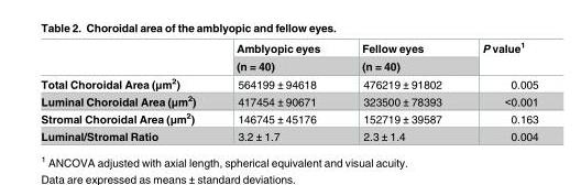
<table><thead><tr><td rowspan="2"></td><td rowspan="2">Amblyopic eyes (n = 40)</td><td rowspan="2">Fellow eyes (n = 40)</td><td rowspan="2">P value<sup>1</sup></td></tr><tr></tr></thead><tbody><tr><td>Total Choroidal Area (μm<sup>2</sup>)</td><td>564199 ± 94618</td><td>476219 ± 91802</td><td>0.005</td></tr><tr><td>Luminal Choroidal Area (μm<sup>2</sup>)</td><td>417454 ± 90671</td><td>323500 ± 78393</td><td>&lt;0.001</td></tr><tr><td>Stromal Choroidal Area (μm<sup>2</sup>)</td><td>146745 ± 45176</td><td>152719 ± 39587</td><td>0.163</td></tr><tr><td>Luminal/Stromal Ratio</td><td>3.2 ± 1.7</td><td>2.3 ± 1.4</td><td>0.004</td></tr></tbody></table>